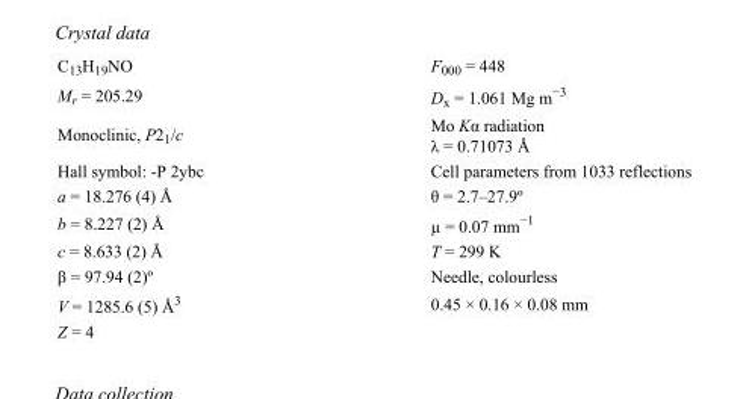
<table><tbody><tr><td>C<sub>13</sub>H<sub>19</sub>NO</td><td>F000 = 448</td></tr><tr><td>M<sub>r</sub> = 205.29</td><td>D<sub>x</sub> = 1.061 Mg m<sup>−3</sup></td></tr><tr><td>Monoclinic, P2<sub>1</sub>/c</td><td>Mo Kα radiation λ = 0.71073 Å</td></tr><tr><td>Hall symbol: -P 2ybc</td><td>Cell parameters from 1033 reflections</td></tr><tr><td>a = 18.276 (4) Å</td><td>θ = 2.7–27.9º</td></tr><tr><td>b = 8.227 (2) Å</td><td>µ = 0.07 mm<sup>−1</sup></td></tr><tr><td>c = 8.633 (2) Å</td><td>T = 299 K</td></tr><tr><td>β = 97.94 (2)º</td><td>Needle, colourless</td></tr><tr><td>V = 1285.6 (5) Å<sup>3</sup></td><td>0.45 × 0.16 × 0.08 mm</td></tr><tr><td>Z = 4</td><td></td></tr></tbody></table>